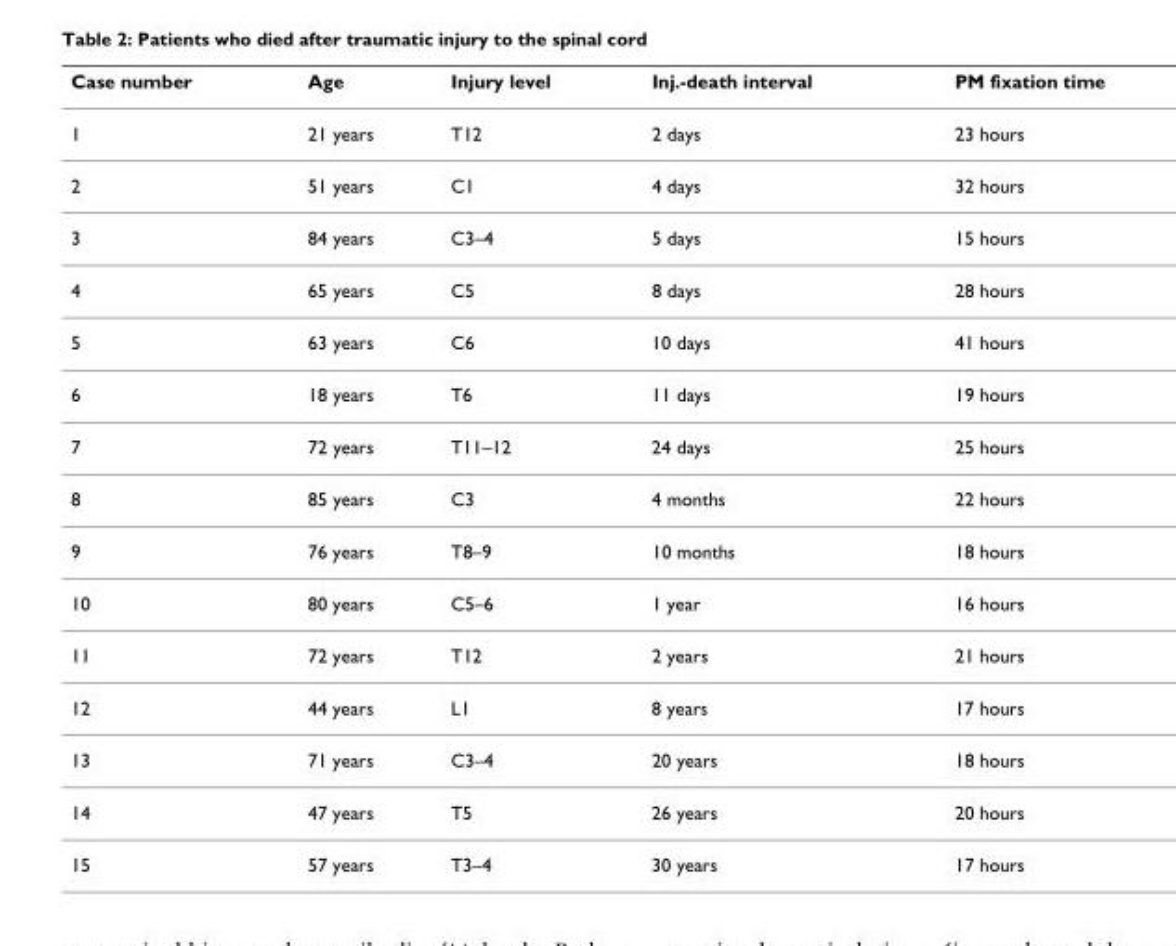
<table><thead><tr><td>Case number</td><td>Age</td><td>Injury level</td><td>Inj.-death interval</td><td>PM fixation time</td></tr></thead><tbody><tr><td>1</td><td>21 years</td><td>T12</td><td>2 days</td><td>23 hours</td></tr><tr><td>2</td><td>51 years</td><td>C1</td><td>4 days</td><td>32 hours</td></tr><tr><td>3</td><td>84 years</td><td>C3–4</td><td>5 days</td><td>15 hours</td></tr><tr><td>4</td><td>65 years</td><td>C5</td><td>8 days</td><td>28 hours</td></tr><tr><td>5</td><td>63 years</td><td>C6</td><td>10 days</td><td>41 hours</td></tr><tr><td>6</td><td>18 years</td><td>T6</td><td>11 days</td><td>19 hours</td></tr><tr><td>7</td><td>72 years</td><td>T11–12</td><td>24 days</td><td>25 hours</td></tr><tr><td>8</td><td>85 years</td><td>C3</td><td>4 months</td><td>22 hours</td></tr><tr><td>9</td><td>76 years</td><td>T8–9</td><td>10 months</td><td>18 hours</td></tr><tr><td>10</td><td>80 years</td><td>C5–6</td><td>1 year</td><td>16 hours</td></tr><tr><td>11</td><td>72 years</td><td>T12</td><td>2 years</td><td>21 hours</td></tr><tr><td>12</td><td>44 years</td><td>L1</td><td>8 years</td><td>17 hours</td></tr><tr><td>13</td><td>71 years</td><td>C3–4</td><td>20 years</td><td>18 hours</td></tr><tr><td>14</td><td>47 years</td><td>T5</td><td>26 years</td><td>20 hours</td></tr><tr><td>15</td><td>57 years</td><td>T3–4</td><td>30 years</td><td>17 hours</td></tr></tbody></table>